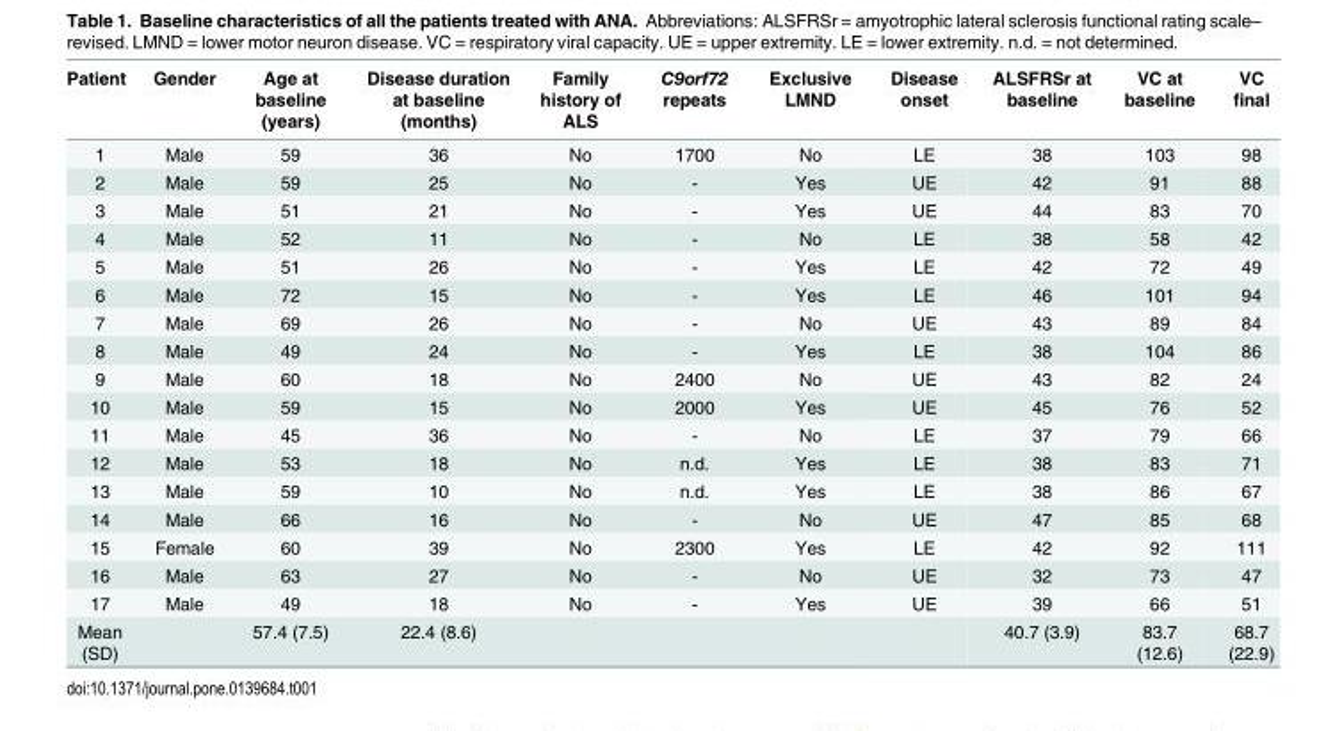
<table><thead><tr><td>Patient</td><td>Gender</td><td>Age at baseline (years)</td><td>Disease duration at baseline (months)</td><td>Family history of ALS</td><td>C9orf72 repeats</td><td>Exclusive LMND</td><td>Disease onset</td><td>ALSFRSr at baseline</td><td>VC at baseline</td><td>VC final</td></tr></thead><tbody><tr><td>1</td><td>Male</td><td>59</td><td>36</td><td>No</td><td>1700</td><td>No</td><td>LE</td><td>38</td><td>103</td><td>98</td></tr><tr><td>2</td><td>Male</td><td>59</td><td>25</td><td>No</td><td>-</td><td>Yes</td><td>UE</td><td>42</td><td>91</td><td>88</td></tr><tr><td>3</td><td>Male</td><td>51</td><td>21</td><td>No</td><td>-</td><td>Yes</td><td>UE</td><td>44</td><td>83</td><td>70</td></tr><tr><td>4</td><td>Male</td><td>52</td><td>11</td><td>No</td><td>-</td><td>No</td><td>LE</td><td>38</td><td>58</td><td>42</td></tr><tr><td>5</td><td>Male</td><td>51</td><td>26</td><td>No</td><td>-</td><td>Yes</td><td>LE</td><td>42</td><td>72</td><td>49</td></tr><tr><td>6</td><td>Male</td><td>72</td><td>15</td><td>No</td><td>-</td><td>Yes</td><td>LE</td><td>46</td><td>101</td><td>94</td></tr><tr><td>7</td><td>Male</td><td>69</td><td>26</td><td>No</td><td>-</td><td>No</td><td>UE</td><td>43</td><td>89</td><td>84</td></tr><tr><td>8</td><td>Male</td><td>49</td><td>24</td><td>No</td><td>-</td><td>Yes</td><td>LE</td><td>38</td><td>104</td><td>86</td></tr><tr><td>9</td><td>Male</td><td>60</td><td>18</td><td>No</td><td>2400</td><td>No</td><td>UE</td><td>43</td><td>82</td><td>24</td></tr><tr><td>10</td><td>Male</td><td>59</td><td>15</td><td>No</td><td>2000</td><td>Yes</td><td>UE</td><td>45</td><td>76</td><td>52</td></tr><tr><td>11</td><td>Male</td><td>45</td><td>36</td><td>No</td><td>-</td><td>No</td><td>LE</td><td>37</td><td>79</td><td>66</td></tr><tr><td>12</td><td>Male</td><td>53</td><td>18</td><td>No</td><td>n.d.</td><td>Yes</td><td>LE</td><td>38</td><td>83</td><td>71</td></tr><tr><td>13</td><td>Male</td><td>59</td><td>10</td><td>No</td><td>n.d.</td><td>Yes</td><td>LE</td><td>38</td><td>86</td><td>67</td></tr><tr><td>14</td><td>Male</td><td>66</td><td>16</td><td>No</td><td>-</td><td>No</td><td>UE</td><td>47</td><td>85</td><td>68</td></tr><tr><td>15</td><td>Female</td><td>60</td><td>39</td><td>No</td><td>2300</td><td>Yes</td><td>LE</td><td>42</td><td>92</td><td>111</td></tr><tr><td>16</td><td>Male</td><td>63</td><td>27</td><td>No</td><td>-</td><td>No</td><td>UE</td><td>32</td><td>73</td><td>47</td></tr><tr><td>17</td><td>Male</td><td>49</td><td>18</td><td>No</td><td>-</td><td>Yes</td><td>UE</td><td>39</td><td>66</td><td>51</td></tr><tr><td>Mean (SD)</td><td></td><td>57.4 (7.5)</td><td>22.4 (8.6)</td><td></td><td></td><td></td><td></td><td>40.7 (3.9)</td><td>83.7 (12.6)</td><td>68.7 (22.9)</td></tr></tbody></table>